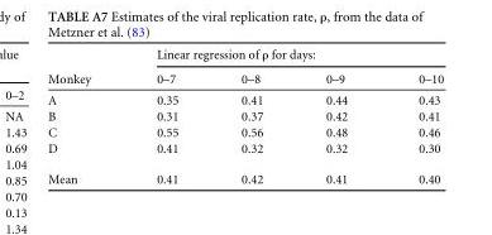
<table><thead><tr><td rowspan="2">Monkey</td><td colspan="4">Linear regression of ρ for days:</td></tr><tr><td>0–7</td><td>0–8</td><td>0–9</td><td>0–10</td></tr></thead><tbody><tr><td>A</td><td>0.35</td><td>0.41</td><td>0.44</td><td>0.43</td></tr><tr><td>B</td><td>0.31</td><td>0.37</td><td>0.42</td><td>0.41</td></tr><tr><td>C</td><td>0.55</td><td>0.56</td><td>0.48</td><td>0.46</td></tr><tr><td>D</td><td>0.41</td><td>0.32</td><td>0.32</td><td>0.30</td></tr><tr><td>Mean</td><td>0.41</td><td>0.42</td><td>0.41</td><td>0.40</td></tr></tbody></table>